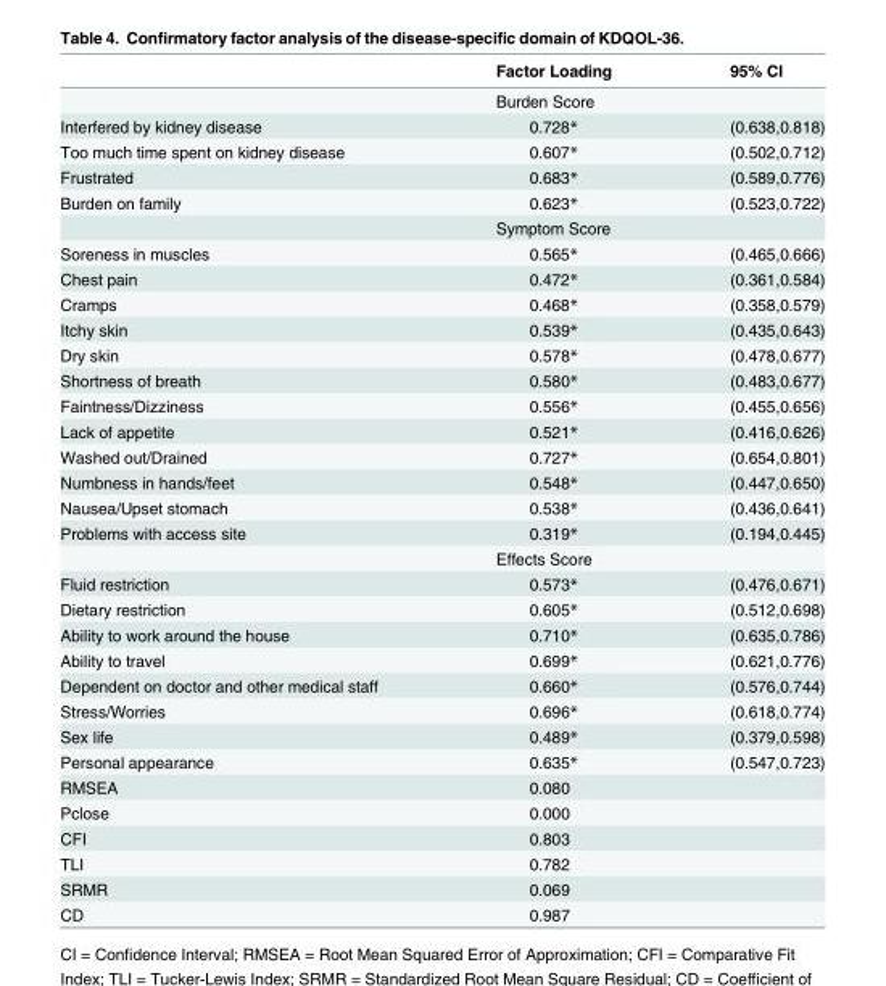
<table><thead><tr><td></td><td>Factor Loading</td><td>95% CI</td></tr></thead><tbody><tr><td></td><td colspan="2">Burden Score</td></tr><tr><td>Interfered by kidney disease</td><td>0.728*</td><td>(0.638,0.818)</td></tr><tr><td>Too much time spent on kidney disease</td><td>0.607*</td><td>(0.502,0.712)</td></tr><tr><td>Frustrated</td><td>0.683*</td><td>(0.589,0.776)</td></tr><tr><td rowspan="2">Burden on family</td><td>0.623*</td><td>(0.523,0.722)</td></tr><tr><td colspan="2">Symptom Score</td></tr><tr><td>Soreness in muscles</td><td>0.565*</td><td>(0.465,0.666)</td></tr><tr><td>Chest pain</td><td>0.472*</td><td>(0.361,0.584)</td></tr><tr><td>Cramps</td><td>0.468*</td><td>(0.358,0.579)</td></tr><tr><td>Itchy skin</td><td>0.539*</td><td>(0.435,0.643)</td></tr><tr><td>Dry skin</td><td>0.578*</td><td>(0.478,0.677)</td></tr><tr><td>Shortness of breath</td><td>0.580*</td><td>(0.483,0.677)</td></tr><tr><td>Faintness/Dizziness</td><td>0.556*</td><td>(0.455,0.656)</td></tr><tr><td>Lack of appetite</td><td>0.521*</td><td>(0.416,0.626)</td></tr><tr><td>Washed out/Drained</td><td>0.727*</td><td>(0.654,0.801)</td></tr><tr><td>Numbness in hands/feet</td><td>0.548*</td><td>(0.447,0.650)</td></tr><tr><td>Nausea/Upset stomach</td><td>0.538*</td><td>(0.436,0.641)</td></tr><tr><td rowspan="2">Problems with access site</td><td>0.319*</td><td>(0.194,0.445)</td></tr><tr><td colspan="2">Effects Score</td></tr><tr><td>Fluid restriction</td><td>0.573*</td><td>(0.476,0.671)</td></tr><tr><td>Dietary restriction</td><td>0.605*</td><td>(0.512,0.698)</td></tr><tr><td>Ability to work around the house</td><td>0.710*</td><td>(0.635,0.786)</td></tr><tr><td>Ability to travel</td><td>0.699*</td><td>(0.621,0.776)</td></tr><tr><td>Dependent on doctor and other medical staff</td><td>0.660*</td><td>(0.576,0.744)</td></tr><tr><td>Stress/Worries</td><td>0.696*</td><td>(0.618,0.774)</td></tr><tr><td>Sex life</td><td>0.489*</td><td>(0.379,0.598)</td></tr><tr><td>Personal appearance</td><td>0.635*</td><td>(0.547,0.723)</td></tr><tr><td>RMSEA</td><td colspan="2">0.080</td></tr><tr><td>Pclose</td><td colspan="2">0.000</td></tr><tr><td>CFI</td><td colspan="2">0.803</td></tr><tr><td>TLI</td><td colspan="2">0.782</td></tr><tr><td>SRMR</td><td colspan="2">0.069</td></tr><tr><td>CD</td><td colspan="2">0.987</td></tr></tbody></table>